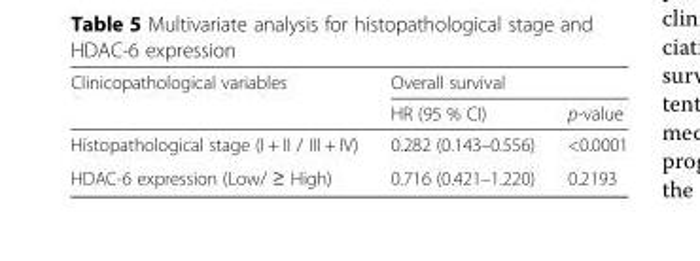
<table><thead><tr><td rowspan="2">Clinicopathological variables</td><td colspan="2">Overall survival</td></tr><tr><td>HR (95 % CI)</td><td>p-value</td></tr></thead><tbody><tr><td>Histopathological stage (I + II / III + IV)</td><td>0.282 (0.143–0.556)</td><td>&lt;0.0001</td></tr><tr><td>HDAC-6 expression (Low/ ≥ High)</td><td>0.716 (0.421–1.220)</td><td>0.2193</td></tr></tbody></table>